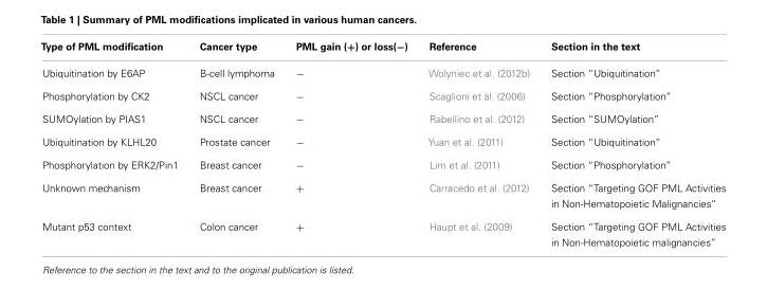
<table><thead><tr><td>Type of PML modification</td><td>Cancer type</td><td>PML gain (+) or loss(−)</td><td>Reference</td><td>Section in the text</td></tr></thead><tbody><tr><td>Ubiquitination by E6AP</td><td>B-cell lymphoma</td><td>−</td><td>Wolyniec et al. (2012b)</td><td>Section “Ubiquitination”</td></tr><tr><td>Phosphorylation by CK2</td><td>NSCL cancer</td><td>−</td><td>Scaglioni et al. (2006)</td><td>Section “Phosphorylation”</td></tr><tr><td>SUMOylation by PIAS1</td><td>NSCL cancer</td><td>−</td><td>Rabellino et al. (2012)</td><td>Section “SUMOylation”</td></tr><tr><td>Ubiquitination by KLHL20</td><td>Prostate cancer</td><td>−</td><td>Yuan et al. (2011)</td><td>Section “Ubiquitination”</td></tr><tr><td>Phosphorylation by ERK2/Pin1</td><td>Breast cancer</td><td>−</td><td>Lim et al. (2011)</td><td>Section “Phosphorylation”</td></tr><tr><td>Unknown mechanism</td><td>Breast cancer</td><td>+</td><td>Carracedo et al. (2012)</td><td>Section “Targeting GOF PML Activities in Non-Hematopoietic Malignancies”</td></tr><tr><td>Mutant p53 context</td><td>Colon cancer</td><td>+</td><td>Haupt et al. (2009)</td><td>Section “Targeting GOF PML Activities in Non-Hematopoietic malignancies”</td></tr></tbody></table>